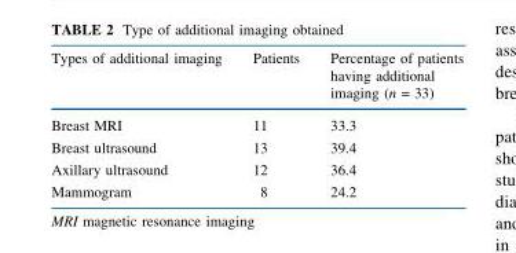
<table><thead><tr><td>Types of additional imaging</td><td>Patients</td><td>Percentage of patients having additional imaging (n = 33)</td></tr></thead><tbody><tr><td>Breast MRI</td><td>11</td><td>33.3</td></tr><tr><td>Breast ultrasound</td><td>13</td><td>39.4</td></tr><tr><td>Axillary ultrasound</td><td>12</td><td>36.4</td></tr><tr><td>Mammogram</td><td>8</td><td>24.2</td></tr></tbody></table>